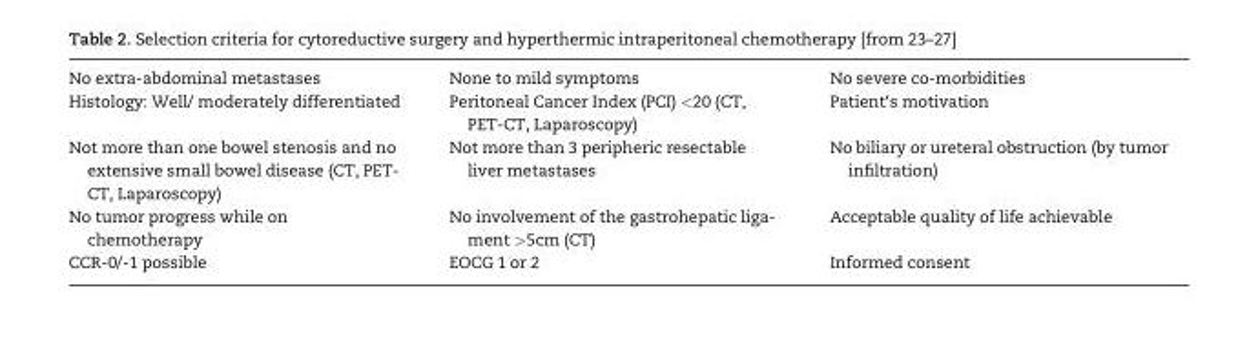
<table><tbody><tr><td>No extra-abdominal metastases</td><td>None to mild symptoms</td><td>No severe co-morbidities</td></tr><tr><td>Histology: Well/ moderately differentiated</td><td>Peritoneal Cancer Index (PCI) &lt;20 (CT, PET-CT, Laparoscopy)</td><td>Patient‘s motivation</td></tr><tr><td>Not more than one bowel stenosis and no extensive small bowel disease (CT, PET- CT, Laparoscopy)</td><td>Not more than 3 peripheric resectable liver metastases</td><td>No biliary or ureteral obstruction (by tumor infiltration)</td></tr><tr><td>No tumor progress while on chemotherapy</td><td>No involvement of the gastrohepatic liga- ment &gt;5cm (CT)</td><td>Acceptable quality of life achievable</td></tr><tr><td>CCR-0/-1 possible</td><td>EOCG 1 or 2</td><td>Informed consent</td></tr></tbody></table>